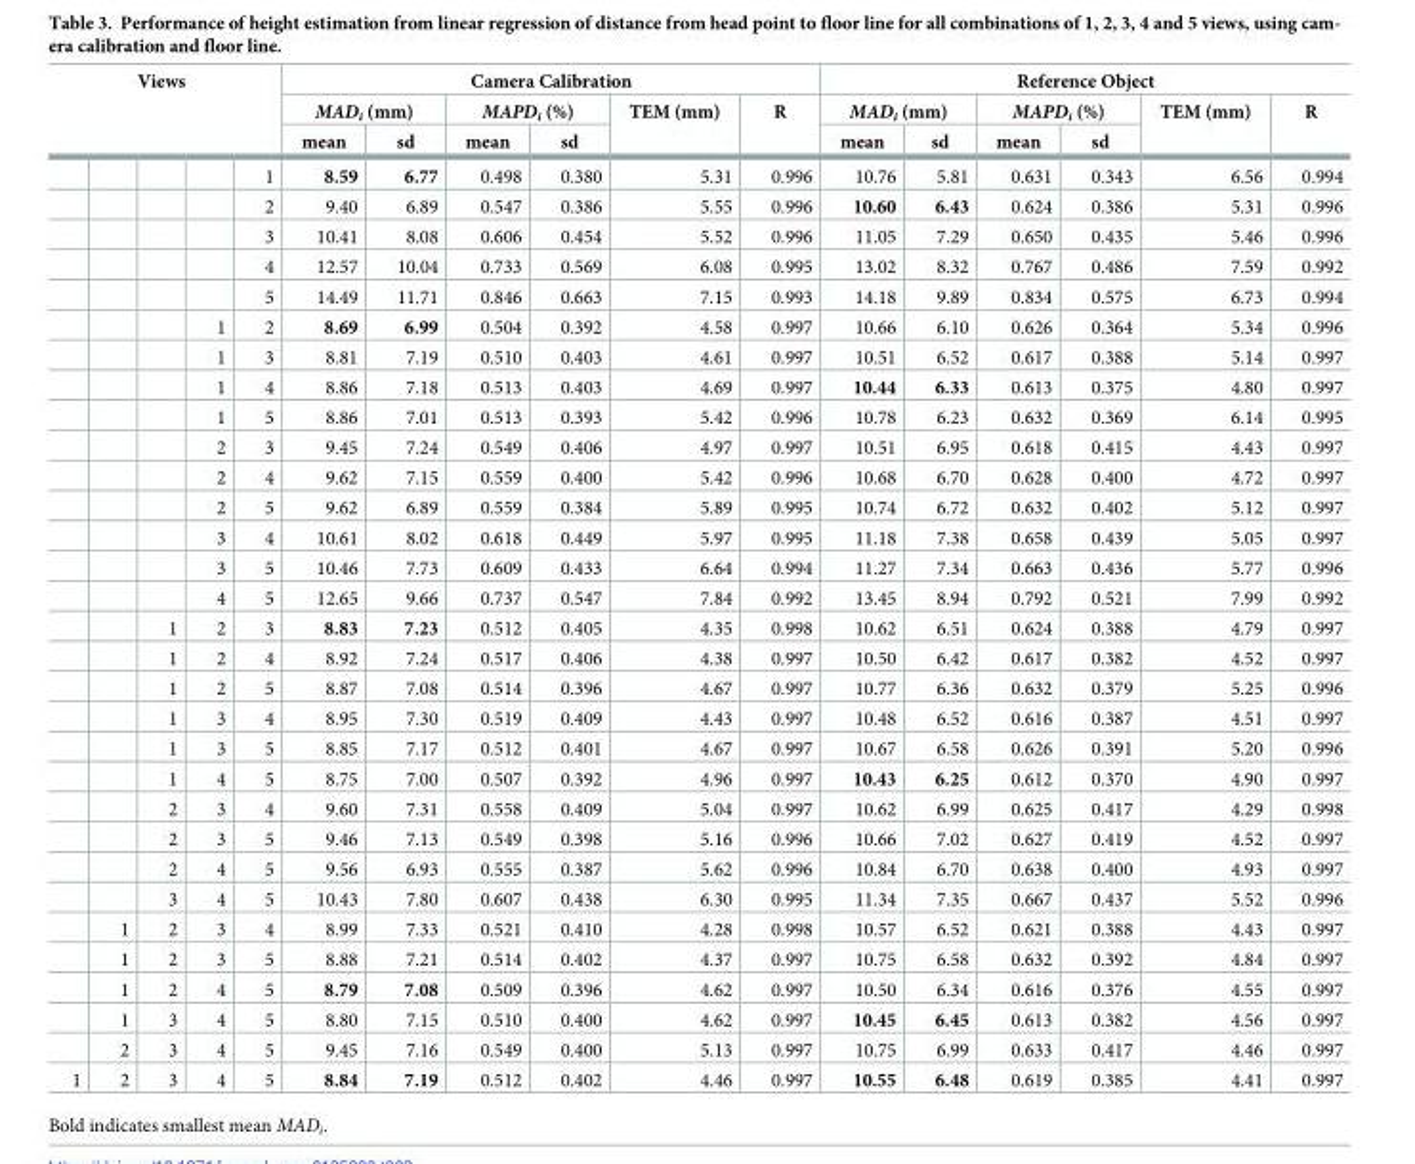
<table><thead><tr><td rowspan="3" colspan="5">Views</td><td colspan="6">Camera Calibration</td><td colspan="6">Reference Object</td></tr><tr><td colspan="2">MAD<sub>i</sub> (mm)</td><td colspan="2">MAPD<sub>i</sub> (%)</td><td rowspan="3">TEM (mm) 5.31</td><td rowspan="3">R 0.996</td><td colspan="2">MAD<sub>i</sub> (mm)</td><td colspan="2">MAPD<sub>i</sub> (%)</td><td rowspan="3">TEM (mm) 6.56</td><td rowspan="3">R 0.994</td></tr><tr><td rowspan="2">mean 8.59</td><td rowspan="2">sd 6.77</td><td rowspan="2">mean 0.498</td><td rowspan="2">sd 0.380</td><td rowspan="2">mean 10.76</td><td rowspan="2">sd 5.81</td><td rowspan="2">mean 0.631</td><td rowspan="2">sd 0.343</td></tr><tr><td></td><td></td><td></td><td></td><td>1</td></tr></thead><tbody><tr><td></td><td></td><td></td><td></td><td>2</td><td>9.40</td><td>6.89</td><td>0.547</td><td>0.386</td><td>5.55</td><td>0.996</td><td>10.60</td><td>6.43</td><td>0.624</td><td>0.386</td><td>5.31</td><td>0.996</td></tr><tr><td></td><td></td><td></td><td></td><td>3</td><td>10.41</td><td>8.08</td><td>0.606</td><td>0.454</td><td>5.52</td><td>0.996</td><td>11.05</td><td>7.29</td><td>0.650</td><td>0.435</td><td>5.46</td><td>0.996</td></tr><tr><td></td><td></td><td></td><td></td><td>4</td><td>12.57</td><td>10.04</td><td>0.733</td><td>0.569</td><td>6.08</td><td>0.995</td><td>13.02</td><td>8.32</td><td>0.767</td><td>0.486</td><td>7.59</td><td>0.992</td></tr><tr><td></td><td></td><td></td><td></td><td>5</td><td>14.49</td><td>11.71</td><td>0.846</td><td>0.663</td><td>7.15</td><td>0.993</td><td>14.18</td><td>9.89</td><td>0.834</td><td>0.575</td><td>6.73</td><td>0.994</td></tr><tr><td></td><td></td><td></td><td>1</td><td>2</td><td>8.69</td><td>6.99</td><td>0.504</td><td>0.392</td><td>4.58</td><td>0.997</td><td>10.66</td><td>6.10</td><td>0.626</td><td>0.364</td><td>5.34</td><td>0.996</td></tr><tr><td></td><td></td><td></td><td>1</td><td>3</td><td>8.81</td><td>7.19</td><td>0.510</td><td>0.403</td><td>4.61</td><td>0.997</td><td>10.51</td><td>6.52</td><td>0.617</td><td>0.388</td><td>5.14</td><td>0.997</td></tr><tr><td></td><td></td><td></td><td>1</td><td>4</td><td>8.86</td><td>7.18</td><td>0.513</td><td>0.403</td><td>4.69</td><td>0.997</td><td>10.44</td><td>6.33</td><td>0.613</td><td>0.375</td><td>4.80</td><td>0.997</td></tr><tr><td></td><td></td><td></td><td>1</td><td>5</td><td>8.86</td><td>7.01</td><td>0.513</td><td>0.393</td><td>5.42</td><td>0.996</td><td>10.78</td><td>6.23</td><td>0.632</td><td>0.369</td><td>6.14</td><td>0.995</td></tr><tr><td></td><td></td><td></td><td>2</td><td>3</td><td>9.45</td><td>7.24</td><td>0.549</td><td>0.406</td><td>4.97</td><td>0.997</td><td>10.51</td><td>6.95</td><td>0.618</td><td>0.415</td><td>4.43</td><td>0.997</td></tr><tr><td></td><td></td><td></td><td>2</td><td>4</td><td>9.62</td><td>7.15</td><td>0.559</td><td>0.400</td><td>5.42</td><td>0.996</td><td>10.68</td><td>6.70</td><td>0.628</td><td>0.400</td><td>4.72</td><td>0.997</td></tr><tr><td></td><td></td><td></td><td>2</td><td>5</td><td>9.62</td><td>6.89</td><td>0.559</td><td>0.384</td><td>5.89</td><td>0.995</td><td>10.74</td><td>6.72</td><td>0.632</td><td>0.402</td><td>5.12</td><td>0.997</td></tr><tr><td></td><td></td><td></td><td>3</td><td>4</td><td>10.61</td><td>8.02</td><td>0.618</td><td>0.449</td><td>5.97</td><td>0.995</td><td>11.18</td><td>7.38</td><td>0.658</td><td>0.439</td><td>5.05</td><td>0.997</td></tr><tr><td></td><td></td><td></td><td>3</td><td>5</td><td>10.46</td><td>7.73</td><td>0.609</td><td>0.433</td><td>6.64</td><td>0.994</td><td>11.27</td><td>7.34</td><td>0.663</td><td>0.436</td><td>5.77</td><td>0.996</td></tr><tr><td></td><td></td><td></td><td>4</td><td>5</td><td>12.65</td><td>9.66</td><td>0.737</td><td>0.547</td><td>7.84</td><td>0.992</td><td>13.45</td><td>8.94</td><td>0.792</td><td>0.521</td><td>7.99</td><td>0.992</td></tr><tr><td></td><td></td><td>1</td><td>2</td><td>3</td><td>8.83</td><td>7.23</td><td>0.512</td><td>0.405</td><td>4.35</td><td>0.998</td><td>10.62</td><td>6.51</td><td>0.624</td><td>0.388</td><td>4.79</td><td>0.997</td></tr><tr><td></td><td></td><td>1</td><td>2</td><td>4</td><td>8.92</td><td>7.24</td><td>0.517</td><td>0.406</td><td>4.38</td><td>0.997</td><td>10.50</td><td>6.42</td><td>0.617</td><td>0.382</td><td>4.52</td><td>0.997</td></tr><tr><td></td><td></td><td>1</td><td>2</td><td>5</td><td>8.87</td><td>7.08</td><td>0.514</td><td>0.396</td><td>4.67</td><td>0.997</td><td>10.77</td><td>6.36</td><td>0.632</td><td>0.379</td><td>5.25</td><td>0.996</td></tr><tr><td></td><td></td><td>1</td><td>3</td><td>4</td><td>8.95</td><td>7.30</td><td>0.519</td><td>0.409</td><td>4.43</td><td>0.997</td><td>10.48</td><td>6.52</td><td>0.616</td><td>0.387</td><td>4.51</td><td>0.997</td></tr><tr><td></td><td></td><td>1</td><td>3</td><td>5</td><td>8.85</td><td>7.17</td><td>0.512</td><td>0.401</td><td>4.67</td><td>0.997</td><td>10.67</td><td>6.58</td><td>0.626</td><td>0.391</td><td>5.20</td><td>0.996</td></tr><tr><td></td><td></td><td>1</td><td>4</td><td>5</td><td>8.75</td><td>7.00</td><td>0.507</td><td>0.392</td><td>4.96</td><td>0.997</td><td>10.43</td><td>6.25</td><td>0.612</td><td>0.370</td><td>4.90</td><td>0.997</td></tr><tr><td></td><td></td><td>2</td><td>3</td><td>4</td><td>9.60</td><td>7.31</td><td>0.558</td><td>0.409</td><td>5.04</td><td>0.997</td><td>10.62</td><td>6.99</td><td>0.625</td><td>0.417</td><td>4.29</td><td>0.998</td></tr><tr><td></td><td></td><td>2</td><td>3</td><td>5</td><td>9.46</td><td>7.13</td><td>0.549</td><td>0.398</td><td>5.16</td><td>0.996</td><td>10.66</td><td>7.02</td><td>0.627</td><td>0.419</td><td>4.52</td><td>0.997</td></tr><tr><td></td><td></td><td>2</td><td>4</td><td>5</td><td>9.56</td><td>6.93</td><td>0.555</td><td>0.387</td><td>5.62</td><td>0.996</td><td>10.84</td><td>6.70</td><td>0.638</td><td>0.400</td><td>4.93</td><td>0.997</td></tr><tr><td></td><td></td><td>3</td><td>4</td><td>5</td><td>10.43</td><td>7.80</td><td>0.607</td><td>0.438</td><td>6.30</td><td>0.995</td><td>11.34</td><td>7.35</td><td>0.667</td><td>0.437</td><td>5.52</td><td>0.996</td></tr><tr><td></td><td>1</td><td>2</td><td>3</td><td>4</td><td>8.99</td><td>7.33</td><td>0.521</td><td>0.410</td><td>4.28</td><td>0.998</td><td>10.57</td><td>6.52</td><td>0.621</td><td>0.388</td><td>4.43</td><td>0.997</td></tr><tr><td></td><td>1</td><td>2</td><td>3</td><td>5</td><td>8.88</td><td>7.21</td><td>0.514</td><td>0.402</td><td>4.37</td><td>0.997</td><td>10.75</td><td>6.58</td><td>0.632</td><td>0.392</td><td>4.84</td><td>0.997</td></tr><tr><td></td><td>1</td><td>2</td><td>4</td><td>5</td><td>8.79</td><td>7.08</td><td>0.509</td><td>0.396</td><td>4.62</td><td>0.997</td><td>10.50</td><td>6.34</td><td>0.616</td><td>0.376</td><td>4.55</td><td>0.997</td></tr><tr><td></td><td>1</td><td>3</td><td>4</td><td>5</td><td>8.80</td><td>7.15</td><td>0.510</td><td>0.400</td><td>4.62</td><td>0.997</td><td>10.45</td><td>6.45</td><td>0.613</td><td>0.382</td><td>4.56</td><td>0.997</td></tr><tr><td></td><td>2</td><td>3</td><td>4</td><td>5</td><td>9.45</td><td>7.16</td><td>0.549</td><td>0.400</td><td>5.13</td><td>0.997</td><td>10.75</td><td>6.99</td><td>0.633</td><td>0.417</td><td>4.46</td><td>0.997</td></tr><tr><td>1</td><td>2</td><td>3</td><td>4</td><td>5</td><td>8.84</td><td>7.19</td><td>0.512</td><td>0.402</td><td>4.46</td><td>0.997</td><td>10.55</td><td>6.48</td><td>0.619</td><td>0.385</td><td>4.41</td><td>0.997</td></tr></tbody></table>